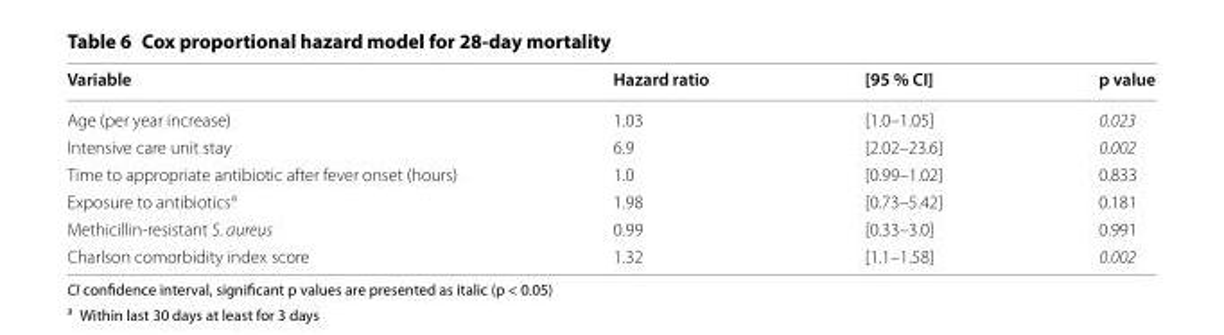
<table><thead><tr><td>Variable</td><td>Hazard ratio</td><td>[95 % CI]</td><td>p value</td></tr></thead><tbody><tr><td>Age (per year increase)</td><td>1.03</td><td>[1.0–1.05]</td><td>0.023</td></tr><tr><td>Intensive care unit stay</td><td>6.9</td><td>[2.02–23.6]</td><td>0.002</td></tr><tr><td>Time to appropriate antibiotic after fever onset (hours)</td><td>1.0</td><td>[0.99–1.02]</td><td>0.833</td></tr><tr><td>Exposure to antibiotics<sup>a</sup></td><td>1.98</td><td>[0.73–5.42]</td><td>0.181</td></tr><tr><td>Methicillin-resistant S. aureus</td><td>0.99</td><td>[0.33–3.0]</td><td>0.991</td></tr><tr><td>Charlson comorbidity index score</td><td>1.32</td><td>[1.1–1.58]</td><td>0.002</td></tr></tbody></table>